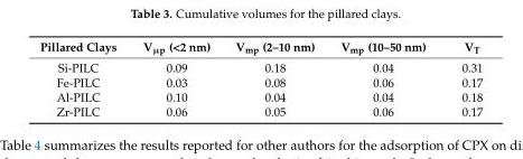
<table><thead><tr><td>Pillared Clays</td><td>V<sub>µp</sub> (&lt;2 nm)</td><td>V<sub>mp</sub> (2–10 nm)</td><td>V<sub>mp</sub> (10–50 nm)</td><td>V<sub>T</sub></td></tr></thead><tbody><tr><td>Si-PILC</td><td>0.09</td><td>0.18</td><td>0.04</td><td>0.31</td></tr><tr><td>Fe-PILC</td><td>0.03</td><td>0.08</td><td>0.06</td><td>0.17</td></tr><tr><td>Al-PILC</td><td>0.10</td><td>0.04</td><td>0.04</td><td>0.18</td></tr><tr><td>Zr-PILC</td><td>0.06</td><td>0.05</td><td>0.06</td><td>0.17</td></tr></tbody></table>